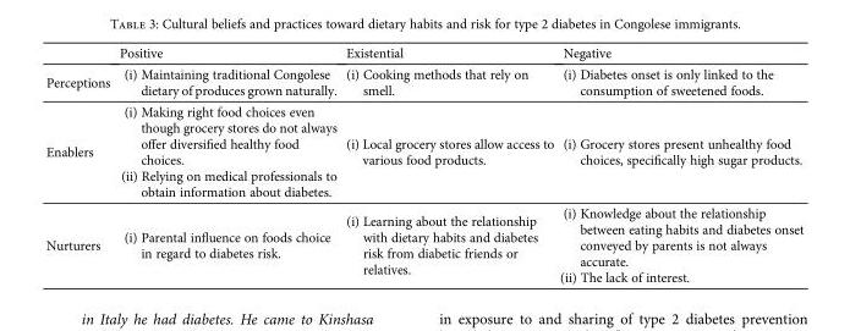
<table><thead><tr><td></td><td>Positive</td><td>Existential</td><td>Negative</td></tr></thead><tbody><tr><td>Perceptions</td><td>(i) Maintaining traditional Congolese dietary of produces grown naturally.</td><td>(i) Cooking methods that rely on smell.</td><td>(i) Diabetes onset is only linked to the consumption of sweetened foods.</td></tr><tr><td>Enablers</td><td>(i) Making right food choices even though grocery stores do not always offer diversified healthy food choices. (ii) Relying on medical professionals to obtain information about diabetes.</td><td>(i) Local grocery stores allow access to various food products.</td><td>(i) Grocery stores present unhealthy food choices, specifically high sugar products.</td></tr><tr><td>Nurturers</td><td>(i) Parental influence on foods choice in regard to diabetes risk.</td><td>(i) Learning about the relationship with dietary habits and diabetes risk from diabetic friends or relatives.</td><td>(i) Knowledge about the relationship between eating habits and diabetes onset conveyed by parents is not always accurate. (ii) The lack of interest.</td></tr></tbody></table>